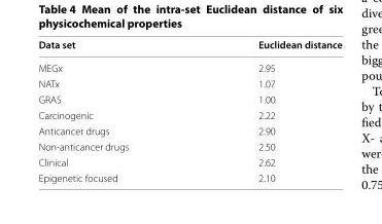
<table><thead><tr><td>Data set</td><td>Euclidean distance</td></tr></thead><tbody><tr><td>MEGx</td><td>2.95</td></tr><tr><td>NATx</td><td>1.07</td></tr><tr><td>GRAS</td><td>1.00</td></tr><tr><td>Carcinogenic</td><td>2.22</td></tr><tr><td>Anticancer drugs</td><td>2.90</td></tr><tr><td>Non‑anticancer drugs</td><td>2.50</td></tr><tr><td>Clinical</td><td>2.62</td></tr><tr><td>Epigenetic focused</td><td>2.10</td></tr></tbody></table>